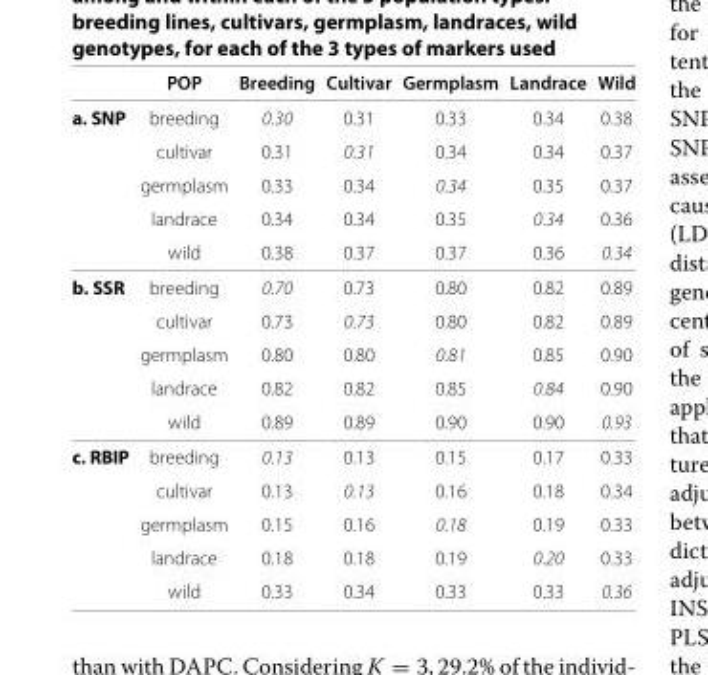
<table><thead><tr><td></td><td>POP</td><td>Breeding</td><td>Cultivar</td><td>Germplasm</td><td>Landrace</td><td>Wild</td></tr></thead><tbody><tr><td rowspan="5">a. SNP</td><td>breeding</td><td>0.30</td><td>0.31</td><td>0.33</td><td>0.34</td><td>0.38</td></tr><tr><td>cultivar</td><td>0.31</td><td>0.31</td><td>0.34</td><td>0.34</td><td>0.37</td></tr><tr><td>germplasm</td><td>0.33</td><td>0.34</td><td>0.34</td><td>0.35</td><td>0.37</td></tr><tr><td>landrace</td><td>0.34</td><td>0.34</td><td>0.35</td><td>0.34</td><td>0.36</td></tr><tr><td>wild</td><td>0.38</td><td>0.37</td><td>0.37</td><td>0.36</td><td>0.34</td></tr><tr><td rowspan="5">b. SSR</td><td>breeding</td><td>0.70</td><td>0.73</td><td>0.80</td><td>0.82</td><td>0.89</td></tr><tr><td>cultivar</td><td>0.73</td><td>0.73</td><td>0.80</td><td>0.82</td><td>0.89</td></tr><tr><td>germplasm</td><td>0.80</td><td>0.80</td><td>0.81</td><td>0.85</td><td>0.90</td></tr><tr><td>landrace</td><td>0.82</td><td>0.82</td><td>0.85</td><td>0.84</td><td>0.90</td></tr><tr><td>wild</td><td>0.89</td><td>0.89</td><td>0.90</td><td>0.90</td><td>0.93</td></tr><tr><td rowspan="5">c. RBIP</td><td>breeding</td><td>0.13</td><td>0.13</td><td>0.15</td><td>0.17</td><td>0.33</td></tr><tr><td>cultivar</td><td>0.13</td><td>0.13</td><td>0.16</td><td>0.18</td><td>0.34</td></tr><tr><td>germplasm</td><td>0.15</td><td>0.16</td><td>0.18</td><td>0.19</td><td>0.33</td></tr><tr><td>landrace</td><td>0.18</td><td>0.18</td><td>0.19</td><td>0.20</td><td>0.33</td></tr><tr><td>wild</td><td>0.33</td><td>0.34</td><td>0.33</td><td>0.33</td><td>0.36</td></tr></tbody></table>